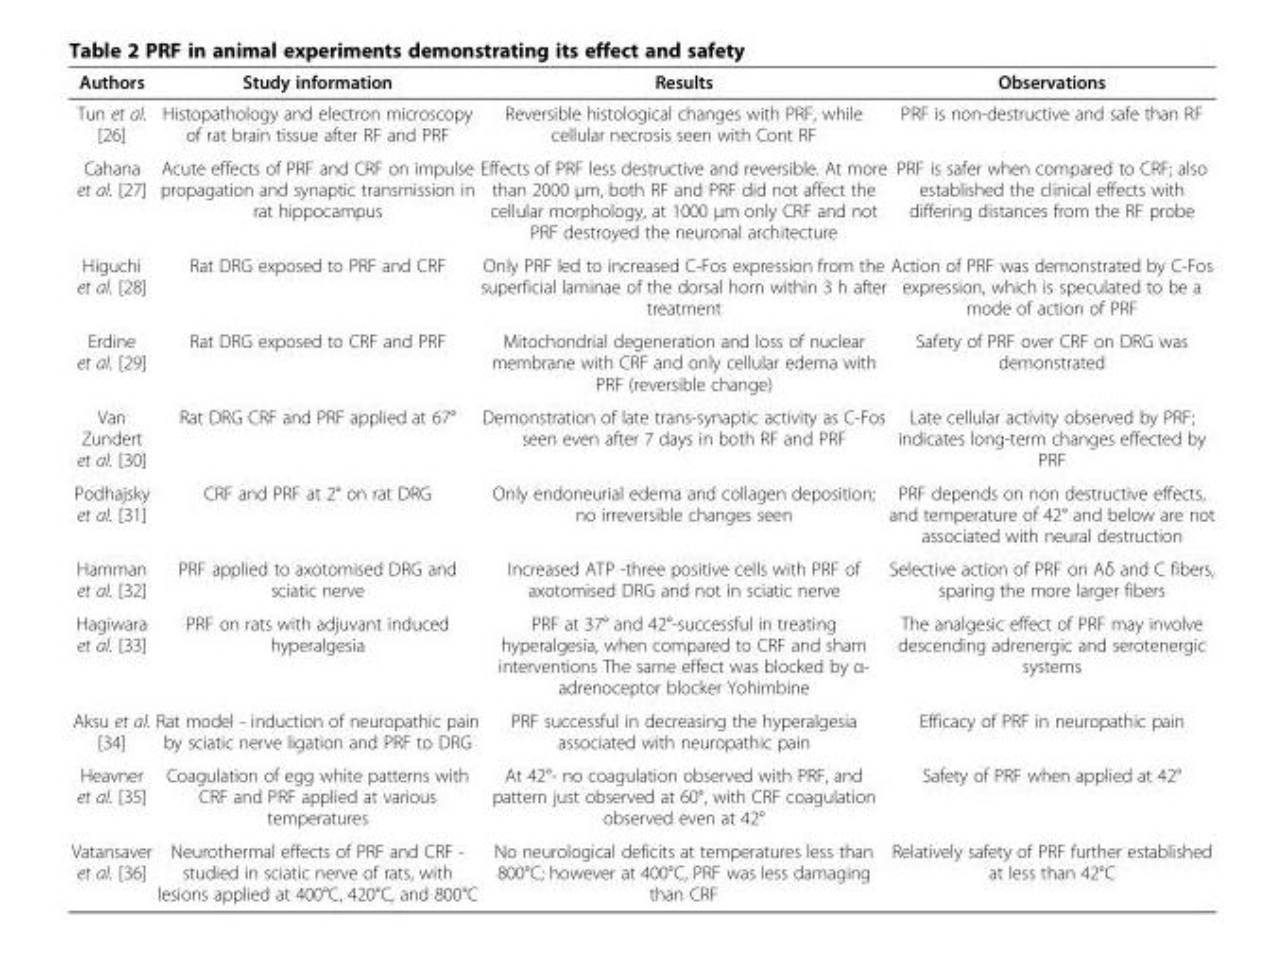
<table><thead><tr><td>Authors</td><td>Study information</td><td>Results</td><td>Observations</td></tr></thead><tbody><tr><td>Tun et al. [26]</td><td>Histopathology and electron microscopy of rat brain tissue after RF and PRF</td><td>Reversible histological changes with PRF, while cellular necrosis seen with Cont RF</td><td>PRF is non-destructive and safe than RF</td></tr><tr><td>Cahana et al. [27]</td><td>Acute effects of PRF and CRF on impulse propagation and synaptic transmission in rat hippocampus</td><td>Effects of PRF less destructive and reversible. At more than 2000 μm, both RF and PRF did not affect the cellular morphology, at 1000 μm only CRF and not PRF destroyed the neuronal architecture</td><td>PRF is safer when compared to CRF; also established the clinical effects with differing distances from the RF probe</td></tr><tr><td>Higuchi et al. [28]</td><td>Rat DRG exposed to PRF and CRF</td><td>Only PRF led to increased C-Fos expression from the superficial laminae of the dorsal horn within 3 h after treatment</td><td>Action of PRF was demonstrated by C-Fos expression, which is speculated to be a mode of action of PRF</td></tr><tr><td>Erdine et al. [29]</td><td>Rat DRG exposed to CRF and PRF</td><td>Mitochondrial degeneration and loss of nuclear membrane with CRF and only cellular edema with PRF (reversible change)</td><td>Safety of PRF over CRF on DRG was demonstrated</td></tr><tr><td>Van Zundert et al. [30]</td><td>Rat DRG CRF and PRF applied at 67°</td><td>Demonstration of late trans-synaptic activity as C-Fos seen even after 7 days in both RF and PRF</td><td>Late cellular activity observed by PRF; indicates long-term changes effected by PRF</td></tr><tr><td>Podhajsky et al. [31]</td><td>CRF and PRF at 2° on rat DRG</td><td>Only endoneurial edema and collagen deposition; no irreversible changes seen</td><td>PRF depends on non destructive effects, and temperature of 42° and below are not associated with neural destruction</td></tr><tr><td>Hamman et al. [32]</td><td>PRF applied to axotomised DRG and sciatic nerve</td><td>Increased ATP -three positive cells with PRF of axotomised DRG and not in sciatic nerve</td><td>Selective action of PRF on Aδ and C fibers, sparing the more larger fibers</td></tr><tr><td>Hagiwara et al. [33]</td><td>PRF on rats with adjuvant induced hyperalgesia</td><td>PRF at 37° and 42°-successful in treating hyperalgesia, when compared to CRF and sham interventions The same effect was blocked by α- adrenoceptor blocker Yohimbine</td><td>The analgesic effect of PRF may involve descending adrenergic and serotenergic systems</td></tr><tr><td>Aksu et al. [34]</td><td>Rat model - induction of neuropathic pain by sciatic nerve ligation and PRF to DRG</td><td>PRF successful in decreasing the hyperalgesia associated with neuropathic pain</td><td>Efficacy of PRF in neuropathic pain</td></tr><tr><td>Heavner et al. [35]</td><td>Coagulation of egg white patterns with CRF and PRF applied at various temperatures</td><td>At 42°- no coagulation observed with PRF, and pattern just observed at 60°, with CRF coagulation observed even at 42°</td><td>Safety of PRF when applied at 42°</td></tr><tr><td>Vatansaver et al. [36]</td><td>Neurothermal effects of PRF and CRF - studied in sciatic nerve of rats, with lesions applied at 400°C, 420°C, and 800°C</td><td>No neurological deficits at temperatures less than 800°C; however at 400°C, PRF was less damaging than CRF</td><td>Relatively safety of PRF further established at less than 42°C</td></tr></tbody></table>